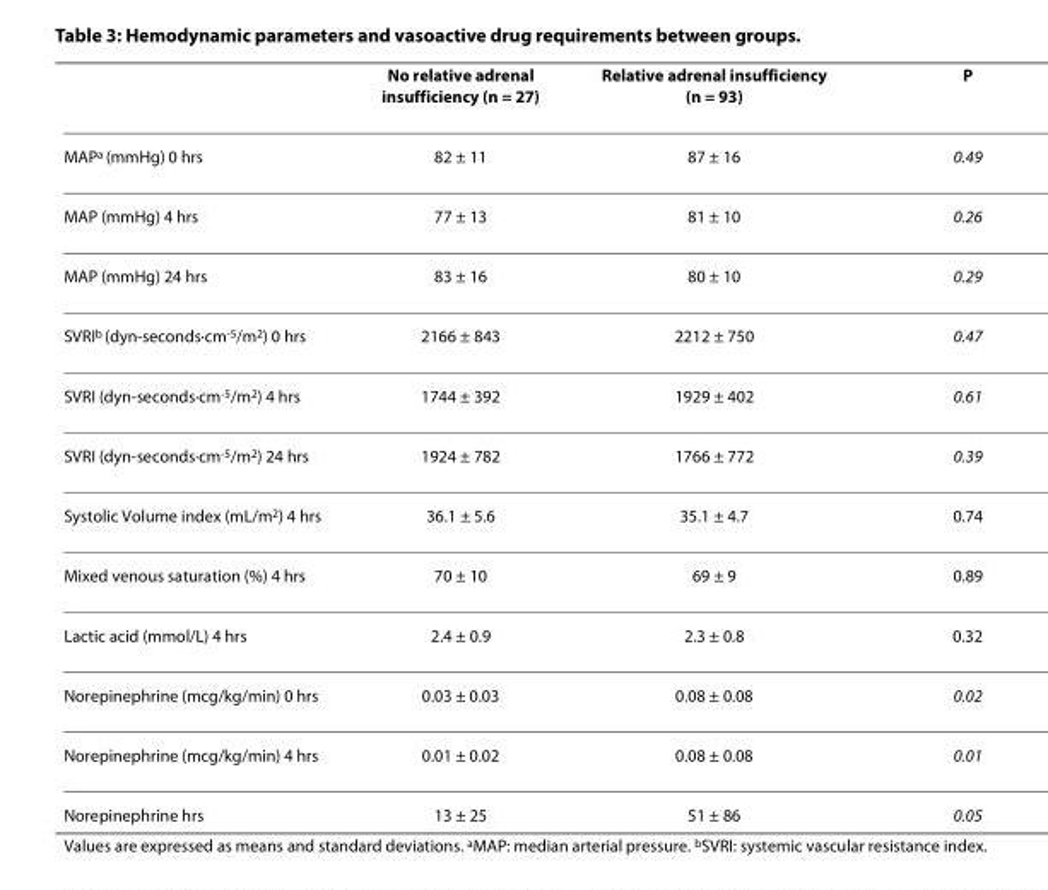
<table><thead><tr><td></td><td>No relative adrenal insufficiency (n = 27)</td><td>Relative adrenal insufficiency (n = 93)</td><td>P</td></tr></thead><tbody><tr><td>MAP<sup>a</sup> (mmHg) 0 hrs</td><td>82 ± 11</td><td>87 ± 16</td><td>0.49</td></tr><tr><td>MAP (mmHg) 4 hrs</td><td>77 ± 13</td><td>81 ± 10</td><td>0.26</td></tr><tr><td>MAP (mmHg) 24 hrs</td><td>83 ± 16</td><td>80 ± 10</td><td>0.29</td></tr><tr><td>SVRI<sup>b</sup> (dyn-seconds·cm<sup>-5</sup>/m<sup>2</sup>) 0 hrs</td><td>2166 ± 843</td><td>2212 ± 750</td><td>0.47</td></tr><tr><td>SVRI (dyn-seconds·cm<sup>-5</sup>/m<sup>2</sup>) 4 hrs</td><td>1744 ± 392</td><td>1929 ± 402</td><td>0.61</td></tr><tr><td>SVRI (dyn-seconds·cm<sup>-5</sup>/m<sup>2</sup>) 24 hrs</td><td>1924 ± 782</td><td>1766 ± 772</td><td>0.39</td></tr><tr><td>Systolic Volume index (mL/m<sup>2</sup>) 4 hrs</td><td>36.1 ± 5.6</td><td>35.1 ± 4.7</td><td>0.74</td></tr><tr><td>Mixed venous saturation (%) 4 hrs</td><td>70 ± 10</td><td>69 ± 9</td><td>0.89</td></tr><tr><td>Lactic acid (mmol/L) 4 hrs</td><td>2.4 ± 0.9</td><td>2.3 ± 0.8</td><td>0.32</td></tr><tr><td>Norepinephrine (mcg/kg/min) 0 hrs</td><td>0.03 ± 0.03</td><td>0.08 ± 0.08</td><td>0.02</td></tr><tr><td>Norepinephrine (mcg/kg/min) 4 hrs</td><td>0.01 ± 0.02</td><td>0.08 ± 0.08</td><td>0.01</td></tr><tr><td>Norepinephrine hrs</td><td>13 ± 25</td><td>51 ± 86</td><td>0.05</td></tr></tbody></table>